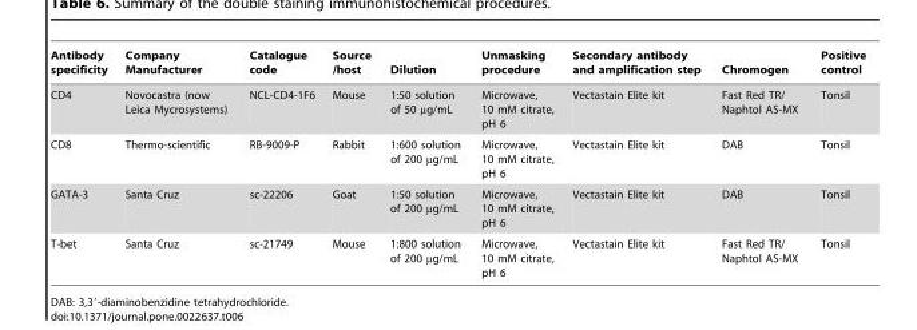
<table><thead><tr><td>Antibody specificity</td><td>Company Manufacturer</td><td>Catalogue code</td><td>Source /host</td><td>Dilution</td><td>Unmasking procedure</td><td>Secondary antibody and amplification step</td><td>Chromogen</td><td>Positive control</td></tr></thead><tbody><tr><td>CD4</td><td>Novocastra (now Leica Mycrosystems)</td><td>NCL-CD4-1F6</td><td>Mouse</td><td>1:50 solution of 50 µg/mL</td><td>Microwave, 10 mM citrate, pH 6</td><td>Vectastain Elite kit</td><td>Fast Red TR/ Naphtol AS-MX</td><td>Tonsil</td></tr><tr><td>CD8</td><td>Thermo-scientific</td><td>RB-9009-P</td><td>Rabbit</td><td>1:600 solution of 200 µg/mL</td><td>Microwave, 10 mM citrate, pH 6</td><td>Vectastain Elite kit</td><td>DAB</td><td>Tonsil</td></tr><tr><td>GATA-3</td><td>Santa Cruz</td><td>sc-22206</td><td>Goat</td><td>1:50 solution of 200 µg/mL</td><td>Microwave, 10 mM citrate, pH 6</td><td>Vectastain Elite kit</td><td>DAB</td><td>Tonsil</td></tr><tr><td>T-bet</td><td>Santa Cruz</td><td>sc-21749</td><td>Mouse</td><td>1:800 solution of 200 µg/mL</td><td>Microwave, 10 mM citrate, pH 6</td><td>Vectastain Elite kit</td><td>Fast Red TR/ Naphtol AS-MX</td><td>Tonsil</td></tr></tbody></table>